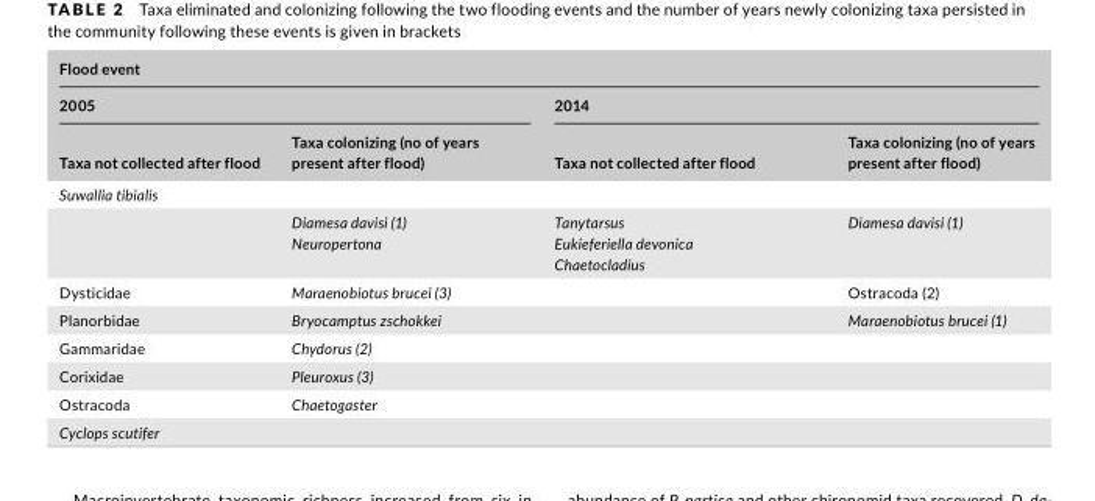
<table><thead><tr><td colspan="4">Flood event</td></tr><tr><td colspan="2">2005</td><td colspan="2">2014</td></tr><tr><td>Taxa not collected after flood</td><td>Taxa colonizing (no of years present after flood)</td><td>Taxa not collected after flood</td><td>Taxa colonizing (no of years present after flood)</td></tr></thead><tbody><tr><td colspan="4">Suwallia tibialis</td></tr><tr><td></td><td>Diamesa davisi (1) Neuropertona</td><td>Tanytarsus Eukieferiella devonica Chaetocladius</td><td>Diamesa davisi (1)</td></tr><tr><td>Dysticidae</td><td>Maraenobiotus brucei (3)</td><td></td><td>Ostracoda (2)</td></tr><tr><td>Planorbidae</td><td>Bryocamptus zschokkei</td><td></td><td>Maraenobiotus brucei (1)</td></tr><tr><td>Gammaridae</td><td>Chydorus (2)</td><td></td><td></td></tr><tr><td>Corixidae</td><td>Pleuroxus (3)</td><td></td><td></td></tr><tr><td>Ostracoda</td><td>Chaetogaster</td><td></td><td></td></tr><tr><td>Cyclops scutifer</td><td></td><td></td><td></td></tr></tbody></table>